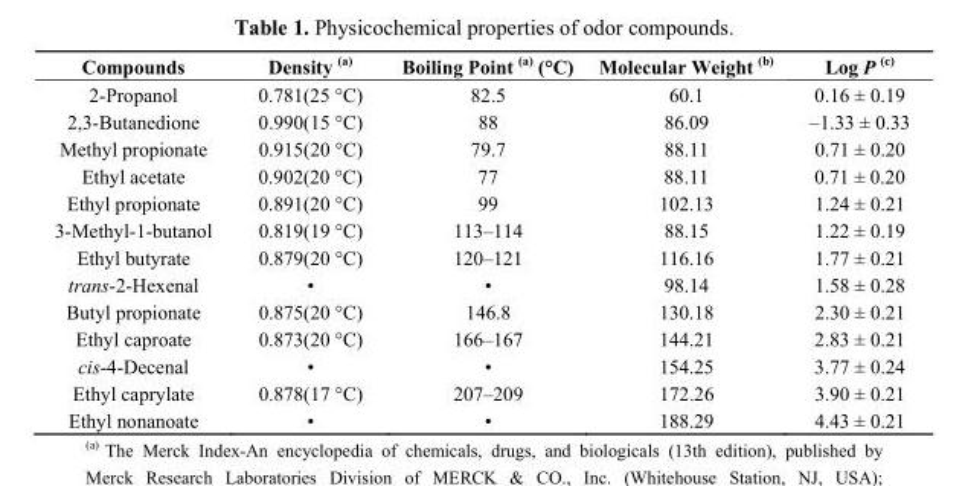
<table><thead><tr><td>Compounds</td><td>Density (a)</td><td>Boiling Point (a) (°C)</td><td>Molecular Weight (b)</td><td>Log P (c)</td></tr></thead><tbody><tr><td>2-Propanol</td><td>0.781(25 °C)</td><td>82.5</td><td>60.1</td><td>0.16 ± 0.19</td></tr><tr><td>2,3-Butanedione</td><td>0.990(15 °C)</td><td>88</td><td>86.09</td><td>–1.33 ± 0.33</td></tr><tr><td>Methyl propionate</td><td>0.915(20 °C)</td><td>79.7</td><td>88.11</td><td>0.71 ± 0.20</td></tr><tr><td>Ethyl acetate</td><td>0.902(20 °C)</td><td>77</td><td>88.11</td><td>0.71 ± 0.20</td></tr><tr><td>Ethyl propionate</td><td>0.891(20 °C)</td><td>99</td><td>102.13</td><td>1.24 ± 0.21</td></tr><tr><td>3-Methyl-1-butanol</td><td>0.819(19 °C)</td><td>113–114</td><td>88.15</td><td>1.22 ± 0.19</td></tr><tr><td>Ethyl butyrate</td><td>0.879(20 °C)</td><td>120–121</td><td>116.16</td><td>1.77 ± 0.21</td></tr><tr><td>trans-2-Hexenal</td><td>•</td><td>•</td><td>98.14</td><td>1.58 ± 0.28</td></tr><tr><td>Butyl propionate</td><td>0.875(20 °C)</td><td>146.8</td><td>130.18</td><td>2.30 ± 0.21</td></tr><tr><td>Ethyl caproate</td><td>0.873(20 °C)</td><td>166–167</td><td>144.21</td><td>2.83 ± 0.21</td></tr><tr><td>cis-4-Decenal</td><td>•</td><td>•</td><td>154.25</td><td>3.77 ± 0.24</td></tr><tr><td>Ethyl caprylate</td><td>0.878(17 °C)</td><td>207–209</td><td>172.26</td><td>3.90 ± 0.21</td></tr><tr><td>Ethyl nonanoate</td><td>•</td><td>•</td><td>188.29</td><td>4.43 ± 0.21</td></tr></tbody></table>